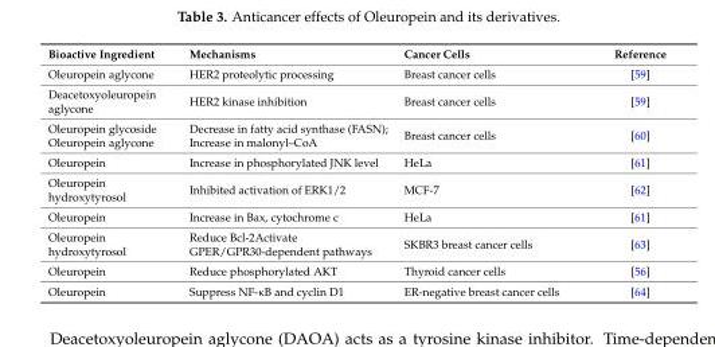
<table><thead><tr><td>Bioactive Ingredient</td><td>Mechanisms</td><td>Cancer Cells</td><td>Reference</td></tr></thead><tbody><tr><td>Oleuropein aglycone</td><td>HER2 proteolytic processing</td><td>Breast cancer cells</td><td>[59]</td></tr><tr><td>Deacetoxyoleuropein aglycone</td><td>HER2 kinase inhibition</td><td>Breast cancer cells</td><td>[59]</td></tr><tr><td>Oleuropein glycoside Oleuropein aglycone</td><td>Decrease in fatty acid synthase (FASN); Increase in malonyl–CoA</td><td>Breast cancer cells</td><td>[60]</td></tr><tr><td>Oleuropein</td><td>Increase in phosphorylated JNK level</td><td>HeLa</td><td>[61]</td></tr><tr><td>Oleuropein hydroxytyrosol</td><td>Inhibited activation of ERK1/2</td><td>MCF-7</td><td>[62]</td></tr><tr><td>Oleuropein</td><td>Increase in Bax, cytochrome c</td><td>HeLa</td><td>[61]</td></tr><tr><td>Oleuropein hydroxytyrosol</td><td>Reduce Bcl-2Activate GPER/GPR30-dependent pathways</td><td>SKBR3 breast cancer cells</td><td>[63]</td></tr><tr><td>Oleuropein</td><td>Reduce phosphorylated AKT</td><td>Thyroid cancer cells</td><td>[56]</td></tr><tr><td>Oleuropein</td><td>Suppress NF-κB and cyclin D1</td><td>ER-negative breast cancer cells</td><td>[64]</td></tr></tbody></table>